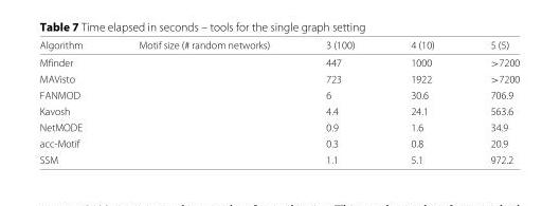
<table><thead><tr><td>Algorithm</td><td>Motif size (# random networks)</td><td>3 (100)</td><td>4 (10)</td><td>5 (5)</td></tr></thead><tbody><tr><td>Mfinder</td><td></td><td>447</td><td>1000</td><td>&gt;7200</td></tr><tr><td>MAVisto</td><td></td><td>723</td><td>1922</td><td>&gt;7200</td></tr><tr><td>FANMOD</td><td></td><td>6</td><td>30.6</td><td>706.9</td></tr><tr><td>Kavosh</td><td></td><td>4.4</td><td>24.1</td><td>563.6</td></tr><tr><td>NetMODE</td><td></td><td>0.9</td><td>1.6</td><td>34.9</td></tr><tr><td>acc-Motif</td><td></td><td>0.3</td><td>0.8</td><td>20.9</td></tr><tr><td>SSM</td><td></td><td>1.1</td><td>5.1</td><td>972.2</td></tr></tbody></table>